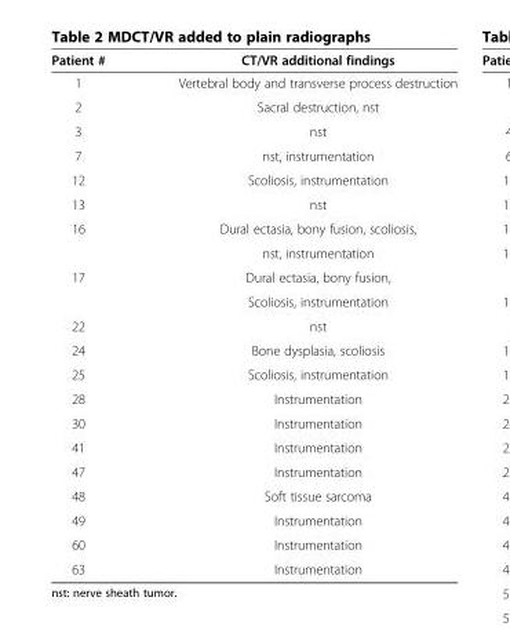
<table><thead><tr><td>Patient #</td><td>CT/VR additional findings</td></tr></thead><tbody><tr><td>1</td><td>Vertebral body and transverse process destruction</td></tr><tr><td>2</td><td>Sacral destruction, nst</td></tr><tr><td>3</td><td>nst</td></tr><tr><td>7</td><td>nst, instrumentation</td></tr><tr><td>12</td><td>Scoliosis, instrumentation</td></tr><tr><td>13</td><td>nst</td></tr><tr><td rowspan="2">16</td><td>Dural ectasia, bony fusion, scoliosis,</td></tr><tr><td>nst, instrumentation</td></tr><tr><td rowspan="2">17</td><td>Dural ectasia, bony fusion,</td></tr><tr><td>Scoliosis, instrumentation</td></tr><tr><td>22</td><td>nst</td></tr><tr><td>24</td><td>Bone dysplasia, scoliosis</td></tr><tr><td>25</td><td>Scoliosis, instrumentation</td></tr><tr><td>28</td><td>Instrumentation</td></tr><tr><td>30</td><td>Instrumentation</td></tr><tr><td>41</td><td>Instrumentation</td></tr><tr><td>47</td><td>Instrumentation</td></tr><tr><td>48</td><td>Soft tissue sarcoma</td></tr><tr><td>49</td><td>Instrumentation</td></tr><tr><td>60</td><td>Instrumentation</td></tr><tr><td>63</td><td>Instrumentation</td></tr></tbody></table>